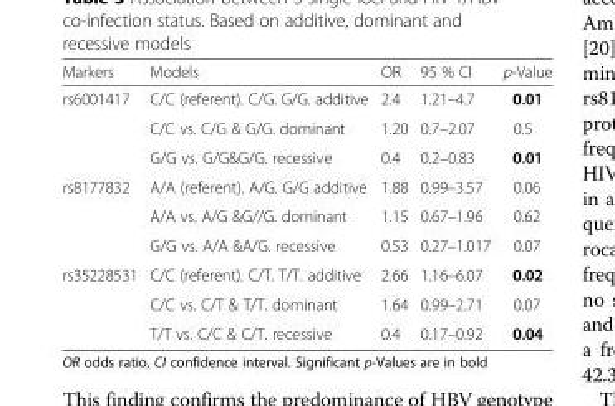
<table><thead><tr><td>Markers</td><td>Models</td><td>OR</td><td>95 % CI</td><td>p-Value</td></tr></thead><tbody><tr><td rowspan="3">rs6001417</td><td>C/C (referent). C/G. G/G. additive</td><td>2.4</td><td>1.21–4.7</td><td>0.01</td></tr><tr><td>C/C vs. C/G &amp; G/G. dominant</td><td>1.20</td><td>0.7–2.07</td><td>0.5</td></tr><tr><td>G/G vs. G/G&amp;G/G. recessive</td><td>0.4</td><td>0.2–0.83</td><td>0.01</td></tr><tr><td rowspan="3">rs8177832</td><td>A/A (referent). A/G. G/G additive</td><td>1.88</td><td>0.99–3.57</td><td>0.06</td></tr><tr><td>A/A vs. A/G &amp;G//G. dominant</td><td>1.15</td><td>0.67–1.96</td><td>0.62</td></tr><tr><td>G/G vs. A/A &amp;A/G. recessive</td><td>0.53</td><td>0.27–1.017</td><td>0.07</td></tr><tr><td rowspan="3">rs35228531</td><td>C/C (referent). C/T. T/T. additive</td><td>2.66</td><td>1.16–6.07</td><td>0.02</td></tr><tr><td>C/C vs. C/T &amp; T/T. dominant</td><td>1.64</td><td>0.99–2.71</td><td>0.07</td></tr><tr><td>T/T vs. C/C &amp; C/T. recessive</td><td>0.4</td><td>0.17–0.92</td><td>0.04</td></tr></tbody></table>